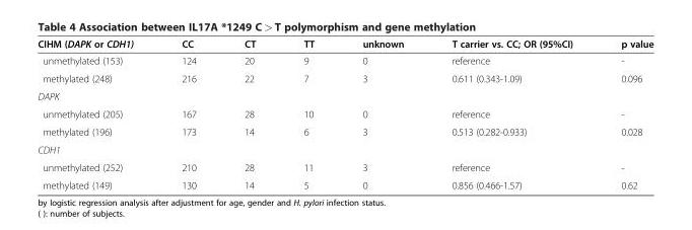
<table><thead><tr><td>CIHM (DAPK or CDH1)</td><td>CC</td><td>CT</td><td>TT</td><td>unknown</td><td>T carrier vs. CC; OR (95%CI)</td><td>p value</td></tr></thead><tbody><tr><td>unmethylated (153)</td><td>124</td><td>20</td><td>9</td><td>0</td><td>reference</td><td>-</td></tr><tr><td>methylated (248)</td><td>216</td><td>22</td><td>7</td><td>3</td><td>0.611 (0.343-1.09)</td><td>0.096</td></tr><tr><td colspan="7">DAPK</td></tr><tr><td>unmethylated (205)</td><td>167</td><td>28</td><td>10</td><td>0</td><td>reference</td><td>-</td></tr><tr><td>methylated (196)</td><td>173</td><td>14</td><td>6</td><td>3</td><td>0.513 (0.282-0.933)</td><td>0.028</td></tr><tr><td colspan="7">CDH1</td></tr><tr><td>unmethylated (252)</td><td>210</td><td>28</td><td>11</td><td>3</td><td>reference</td><td>-</td></tr><tr><td>methylated (149)</td><td>130</td><td>14</td><td>5</td><td>0</td><td>0.856 (0.466-1.57)</td><td>0.62</td></tr></tbody></table>